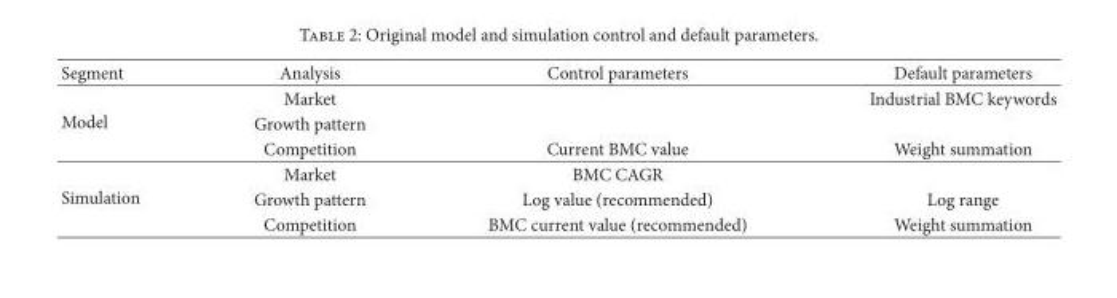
<table><thead><tr><td>Segment</td><td>Analysis</td><td>Control parameters</td><td>Default parameters</td></tr></thead><tbody><tr><td rowspan="3">Model</td><td>Market</td><td></td><td>Industrial BMC keywords</td></tr><tr><td>Growth pattern</td><td></td><td></td></tr><tr><td>Competition</td><td>Current BMC value</td><td>Weight summation</td></tr><tr><td rowspan="3">Simulation</td><td>Market</td><td>BMC CAGR</td><td></td></tr><tr><td>Growth pattern</td><td>Log value (recommended)</td><td>Log range</td></tr><tr><td>Competition</td><td>BMC current value (recommended)</td><td>Weight summation</td></tr></tbody></table>